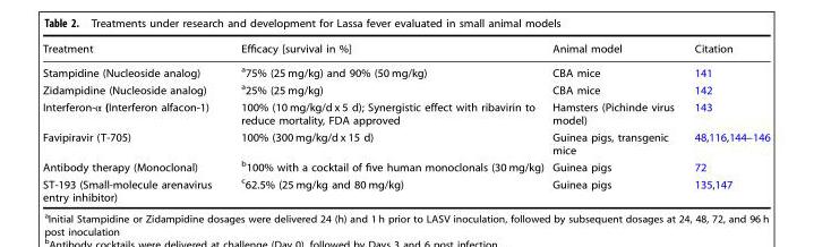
<table><thead><tr><td>Treatment</td><td>Efficacy [survival in %]</td><td>Animal model</td><td>Citation</td></tr></thead><tbody><tr><td>Stampidine (Nucleoside analog)</td><td><sup>a</sup>75% (25 mg/kg) and 90% (50 mg/kg)</td><td>CBA mice</td><td>141</td></tr><tr><td>Zidampidine (Nucleoside analog)</td><td><sup>a</sup>25% (25 mg/kg)</td><td>CBA mice</td><td>142</td></tr><tr><td>Interferon-α (Interferon alfacon-1)</td><td>100% (10 mg/kg/d x 5 d); Synergistic effect with ribavirin to reduce mortality, FDA approved</td><td>Hamsters (Pichinde virus model)</td><td>143</td></tr><tr><td>Favipiravir (T-705)</td><td>100% (300 mg/kg/d x 15 d)</td><td>Guinea pigs, transgenic mice</td><td>48,116,144–146</td></tr><tr><td>Antibody therapy (Monoclonal)</td><td><sup>b</sup>100% with a cocktail of five human monoclonals (30 mg/kg)</td><td>Guinea pigs</td><td>72</td></tr><tr><td>ST-193 (Small-molecule arenavirus entry inhibitor)</td><td><sup>c</sup>62.5% (25 mg/kg and 80 mg/kg)</td><td>Guinea pigs</td><td>135,147</td></tr></tbody></table>